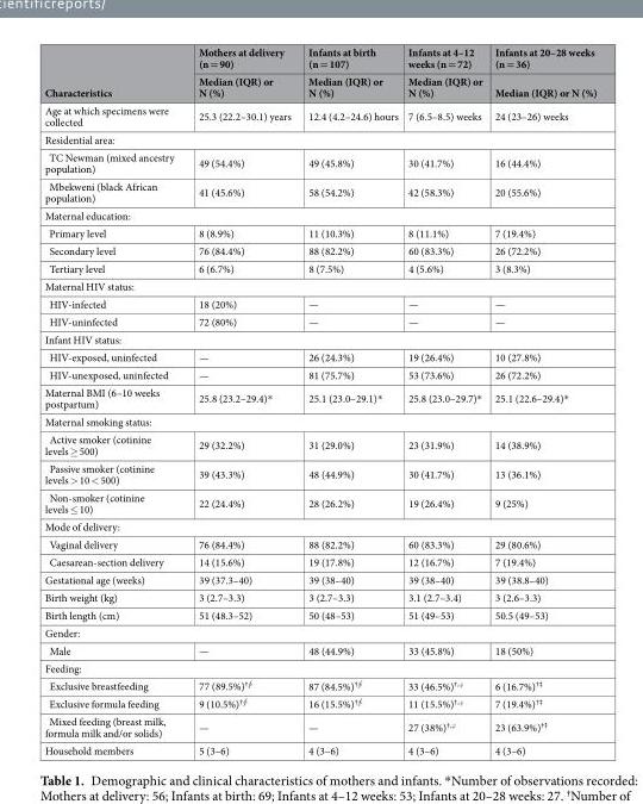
<table><thead><tr><td rowspan="2">Characteristics</td><td rowspan="2">Mothers at delivery (n = 90) Median (IQR) or N (%)</td><td rowspan="2">Infants at birth (n = 107) Median (IQR) or N (%)</td><td rowspan="2">Infants at 4–12 weeks (n = 72) Median (IQR) or N (%)</td><td rowspan="2">Infants at 20–28 weeks (n = 36) Median (IQR) or N (%)</td></tr><tr></tr></thead><tbody><tr><td>Age at which specimens were collected</td><td>25.3 (22.2–30.1) years</td><td>12.4 (4.2–24.6) hours</td><td>7 (6.5–8.5) weeks</td><td>24 (23–26) weeks</td></tr><tr><td colspan="5">Residential area:</td></tr><tr><td>TC Newman (mixed ancestry population)</td><td>49 (54.4%)</td><td>49 (45.8%)</td><td>30 (41.7%)</td><td>16 (44.4%)</td></tr><tr><td>Mbekweni (black African population)</td><td>41 (45.6%)</td><td>58 (54.2%)</td><td>42 (58.3%)</td><td>20 (55.6%)</td></tr><tr><td colspan="5">Maternal education:</td></tr><tr><td>Primary level</td><td>8 (8.9%)</td><td>11 (10.3%)</td><td>8 (11.1%)</td><td>7 (19.4%)</td></tr><tr><td>Secondary level</td><td>76 (84.4%)</td><td>88 (82.2%)</td><td>60 (83.3%)</td><td>26 (72.2%)</td></tr><tr><td>Tertiary level</td><td>6 (6.7%)</td><td>8 (7.5%)</td><td>4 (5.6%)</td><td>3 (8.3%)</td></tr><tr><td colspan="5">Maternal HIV status:</td></tr><tr><td>HIV-infected</td><td>18 (20%)</td><td>—</td><td>—</td><td>—</td></tr><tr><td>HIV-uninfected</td><td>72 (80%)</td><td>—</td><td>—</td><td>—</td></tr><tr><td colspan="5">Infant HIV status:</td></tr><tr><td>HIV-exposed, uninfected</td><td>—</td><td>26 (24.3%)</td><td>19 (26.4%)</td><td>10 (27.8%)</td></tr><tr><td>HIV-unexposed, uninfected</td><td>—</td><td>81 (75.7%)</td><td>53 (73.6%)</td><td>26 (72.2%)</td></tr><tr><td>Maternal BMI (6–10 weeks postpartum)</td><td>25.8 (23.2–29.4)*</td><td>25.1 (23.0–29.1)*</td><td>25.8 (23.0–29.7)*</td><td>25.1 (22.6–29.4)*</td></tr><tr><td colspan="5">Maternal smoking status:</td></tr><tr><td>Active smoker (cotinine levels ≥ 500)</td><td>29 (32.2%)</td><td>31 (29.0%)</td><td>23 (31.9%)</td><td>14 (38.9%)</td></tr><tr><td>Passive smoker (cotinine levels &gt; 10 &lt; 500)</td><td>39 (43.3%)</td><td>48 (44.9%)</td><td>30 (41.7%)</td><td>13 (36.1%)</td></tr><tr><td>Non-smoker (cotinine levels ≤ 10)</td><td>22 (24.4%)</td><td>28 (26.2%)</td><td>19 (26.4%)</td><td>9 (25%)</td></tr><tr><td colspan="5">Mode of delivery:</td></tr><tr><td>Vaginal delivery</td><td>76 (84.4%)</td><td>88 (82.2%)</td><td>60 (83.3%)</td><td>29 (80.6%)</td></tr><tr><td>Caesarean-section delivery</td><td>14 (15.6%)</td><td>19 (17.8%)</td><td>12 (16.7%)</td><td>7 (19.4%)</td></tr><tr><td>Gestational age (weeks)</td><td>39 (37.3–40)</td><td>39 (38–40)</td><td>39 (38–40)</td><td>39 (38.8–40)</td></tr><tr><td>Birth weight (kg)</td><td>3 (2.7–3.3)</td><td>3 (2.7–3.3)</td><td>3.1 (2.7–3.4)</td><td>3 (2.6–3.3)</td></tr><tr><td>Birth length (cm)</td><td>51 (48.3–52)</td><td>50 (48–53)</td><td>51 (49–53)</td><td>50.5 (49–53)</td></tr><tr><td colspan="5">Gender:</td></tr><tr><td>Male</td><td>—</td><td>48 (44.9%)</td><td>33 (45.8%)</td><td>18 (50%)</td></tr><tr><td colspan="5">Feeding:</td></tr><tr><td>Exclusive breastfeeding</td><td>77 (89.5%)<sup>†⨕</sup></td><td>87 (84.5%)<sup>†⨕</sup></td><td>33 (46.5%)<sup>†,ϕ</sup></td><td>6 (16.7%)<sup>†⤉</sup></td></tr><tr><td>Exclusive formula feeding</td><td>9 (10.5%)<sup>†⨕</sup></td><td>16 (15.5%)<sup>†⨕</sup></td><td>11 (15.5%)<sup>†,ϕ</sup></td><td>7 (19.4%)<sup>†⤉</sup></td></tr><tr><td>Mixed feeding (breast milk, formula milk and/or solids)</td><td>—</td><td>—</td><td>27 (38%)<sup>†,ϕ</sup></td><td>23 (63.9%)<sup>†⤉</sup></td></tr><tr><td>Household members</td><td>5 (3–6)</td><td>4 (3–6)</td><td>4 (3–6)</td><td>4 (3–6)</td></tr></tbody></table>